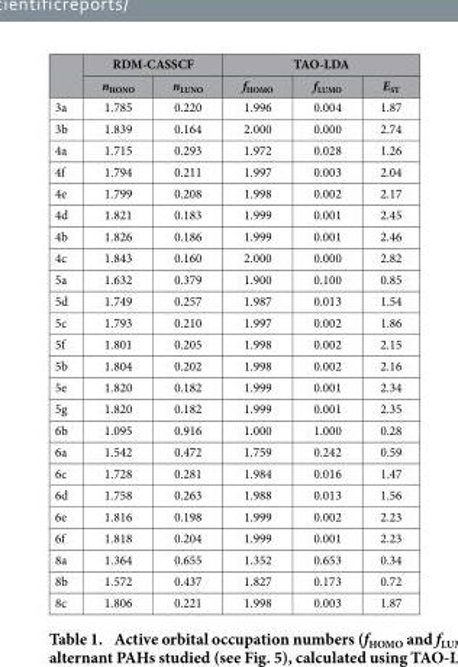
<table><thead><tr><td rowspan="2"></td><td colspan="2">RDM-CASSCF</td><td colspan="3">TAO-LDA</td></tr><tr><td>n<sub>HONO</sub></td><td>n<sub>LUNO</sub></td><td>f<sub>HOMO</sub></td><td>f<sub>LUMO</sub></td><td>E<sub>ST</sub></td></tr></thead><tbody><tr><td>3a</td><td>1.785</td><td>0.220</td><td>1.996</td><td>0.004</td><td>1.87</td></tr><tr><td>3b</td><td>1.839</td><td>0.164</td><td>2.000</td><td>0.000</td><td>2.74</td></tr><tr><td>4a</td><td>1.715</td><td>0.293</td><td>1.972</td><td>0.028</td><td>1.26</td></tr><tr><td>4f</td><td>1.794</td><td>0.211</td><td>1.997</td><td>0.003</td><td>2.04</td></tr><tr><td>4e</td><td>1.799</td><td>0.208</td><td>1.998</td><td>0.002</td><td>2.17</td></tr><tr><td>4d</td><td>1.821</td><td>0.183</td><td>1.999</td><td>0.001</td><td>2.45</td></tr><tr><td>4b</td><td>1.826</td><td>0.186</td><td>1.999</td><td>0.001</td><td>2.46</td></tr><tr><td>4c</td><td>1.843</td><td>0.160</td><td>2.000</td><td>0.000</td><td>2.82</td></tr><tr><td>5a</td><td>1.632</td><td>0.379</td><td>1.900</td><td>0.100</td><td>0.85</td></tr><tr><td>5d</td><td>1.749</td><td>0.257</td><td>1.987</td><td>0.013</td><td>1.54</td></tr><tr><td>5c</td><td>1.793</td><td>0.210</td><td>1.997</td><td>0.002</td><td>1.86</td></tr><tr><td>5f</td><td>1.801</td><td>0.205</td><td>1.998</td><td>0.002</td><td>2.15</td></tr><tr><td>5b</td><td>1.804</td><td>0.202</td><td>1.998</td><td>0.002</td><td>2.16</td></tr><tr><td>5e</td><td>1.820</td><td>0.182</td><td>1.999</td><td>0.001</td><td>2.34</td></tr><tr><td>5g</td><td>1.820</td><td>0.182</td><td>1.999</td><td>0.001</td><td>2.35</td></tr><tr><td>6b</td><td>1.095</td><td>0.916</td><td>1.000</td><td>1.000</td><td>0.28</td></tr><tr><td>6a</td><td>1.542</td><td>0.472</td><td>1.759</td><td>0.242</td><td>0.59</td></tr><tr><td>6c</td><td>1.728</td><td>0.281</td><td>1.984</td><td>0.016</td><td>1.47</td></tr><tr><td>6d</td><td>1.758</td><td>0.263</td><td>1.988</td><td>0.013</td><td>1.56</td></tr><tr><td>6e</td><td>1.816</td><td>0.198</td><td>1.999</td><td>0.002</td><td>2.23</td></tr><tr><td>6f</td><td>1.818</td><td>0.204</td><td>1.999</td><td>0.001</td><td>2.23</td></tr><tr><td>8a</td><td>1.364</td><td>0.655</td><td>1.352</td><td>0.653</td><td>0.34</td></tr><tr><td>8b</td><td>1.572</td><td>0.437</td><td>1.827</td><td>0.173</td><td>0.72</td></tr><tr><td>8c</td><td>1.806</td><td>0.221</td><td>1.998</td><td>0.003</td><td>1.87</td></tr></tbody></table>